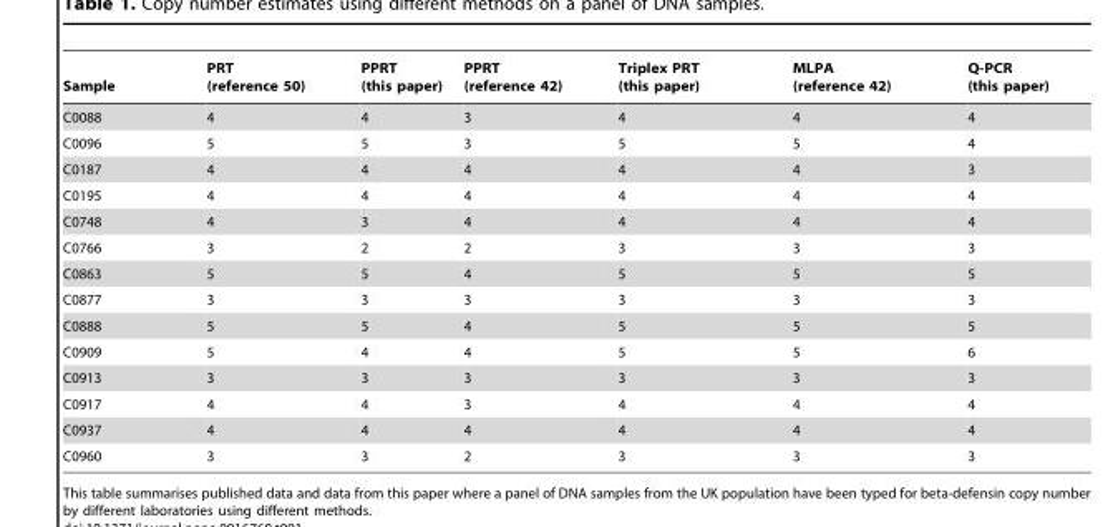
<table><thead><tr><td>Sample</td><td>PRT (reference 50)</td><td>PPRT (this paper)</td><td>PPRT (reference 42)</td><td>Triplex PRT (this paper)</td><td>MLPA (reference 42)</td><td>Q-PCR (this paper)</td></tr></thead><tbody><tr><td>C0088</td><td>4</td><td>4</td><td>3</td><td>4</td><td>4</td><td>4</td></tr><tr><td>C0096</td><td>5</td><td>5</td><td>3</td><td>5</td><td>5</td><td>4</td></tr><tr><td>C0187</td><td>4</td><td>4</td><td>4</td><td>4</td><td>4</td><td>3</td></tr><tr><td>C0195</td><td>4</td><td>4</td><td>4</td><td>4</td><td>4</td><td>4</td></tr><tr><td>C0748</td><td>4</td><td>3</td><td>4</td><td>4</td><td>4</td><td>4</td></tr><tr><td>C0766</td><td>3</td><td>2</td><td>2</td><td>3</td><td>3</td><td>3</td></tr><tr><td>C0863</td><td>5</td><td>5</td><td>4</td><td>5</td><td>5</td><td>5</td></tr><tr><td>C0877</td><td>3</td><td>3</td><td>3</td><td>3</td><td>3</td><td>3</td></tr><tr><td>C0888</td><td>5</td><td>5</td><td>4</td><td>5</td><td>5</td><td>5</td></tr><tr><td>C0909</td><td>5</td><td>4</td><td>4</td><td>5</td><td>5</td><td>6</td></tr><tr><td>C0913</td><td>3</td><td>3</td><td>3</td><td>3</td><td>3</td><td>3</td></tr><tr><td>C0917</td><td>4</td><td>4</td><td>3</td><td>4</td><td>4</td><td>4</td></tr><tr><td>C0937</td><td>4</td><td>4</td><td>4</td><td>4</td><td>4</td><td>4</td></tr><tr><td>C0960</td><td>3</td><td>3</td><td>2</td><td>3</td><td>3</td><td>3</td></tr></tbody></table>